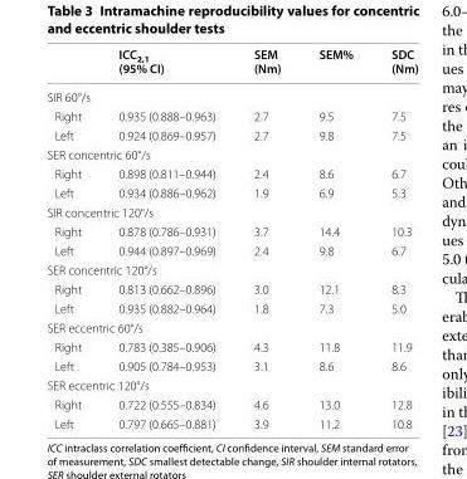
<table><thead><tr><td></td><td>ICC<sub>2,1</sub> (95% CI)</td><td>SEM (Nm)</td><td>SEM%</td><td>SDC (Nm)</td></tr></thead><tbody><tr><td colspan="5">SIR 60°/s</td></tr><tr><td>Right</td><td>0.935 (0.888–0.963)</td><td>2.7</td><td>9.5</td><td>7.5</td></tr><tr><td>Left</td><td>0.924 (0.869–0.957)</td><td>2.7</td><td>9.8</td><td>7.5</td></tr><tr><td colspan="5">SER concentric 60°/s</td></tr><tr><td>Right</td><td>0.898 (0.811–0.944)</td><td>2.4</td><td>8.6</td><td>6.7</td></tr><tr><td>Left</td><td>0.934 (0.886–0.962)</td><td>1.9</td><td>6.9</td><td>5.3</td></tr><tr><td colspan="5">SIR concentric 120°/s</td></tr><tr><td>Right</td><td>0.878 (0.786–0.931)</td><td>3.7</td><td>14.4</td><td>10.3</td></tr><tr><td>Left</td><td>0.944 (0.897–0.969)</td><td>2.4</td><td>9.8</td><td>6.7</td></tr><tr><td colspan="5">SER concentric 120°/s</td></tr><tr><td>Right</td><td>0.813 (0.662–0.896)</td><td>3.0</td><td>12.1</td><td>8.3</td></tr><tr><td>Left</td><td>0.935 (0.882–0.964)</td><td>1.8</td><td>7.3</td><td>5.0</td></tr><tr><td colspan="5">SER eccentric 60°/s</td></tr><tr><td>Right</td><td>0.783 (0.385–0.906)</td><td>4.3</td><td>11.8</td><td>11.9</td></tr><tr><td>Left</td><td>0.905 (0.784–0.953)</td><td>3.1</td><td>8.6</td><td>8.6</td></tr><tr><td colspan="5">SER eccentric 120°/s</td></tr><tr><td>Right</td><td>0.722 (0.555–0.834)</td><td>4.6</td><td>13.0</td><td>12.8</td></tr><tr><td>Left</td><td>0.797 (0.665–0.881)</td><td>3.9</td><td>11.2</td><td>10.8</td></tr></tbody></table>